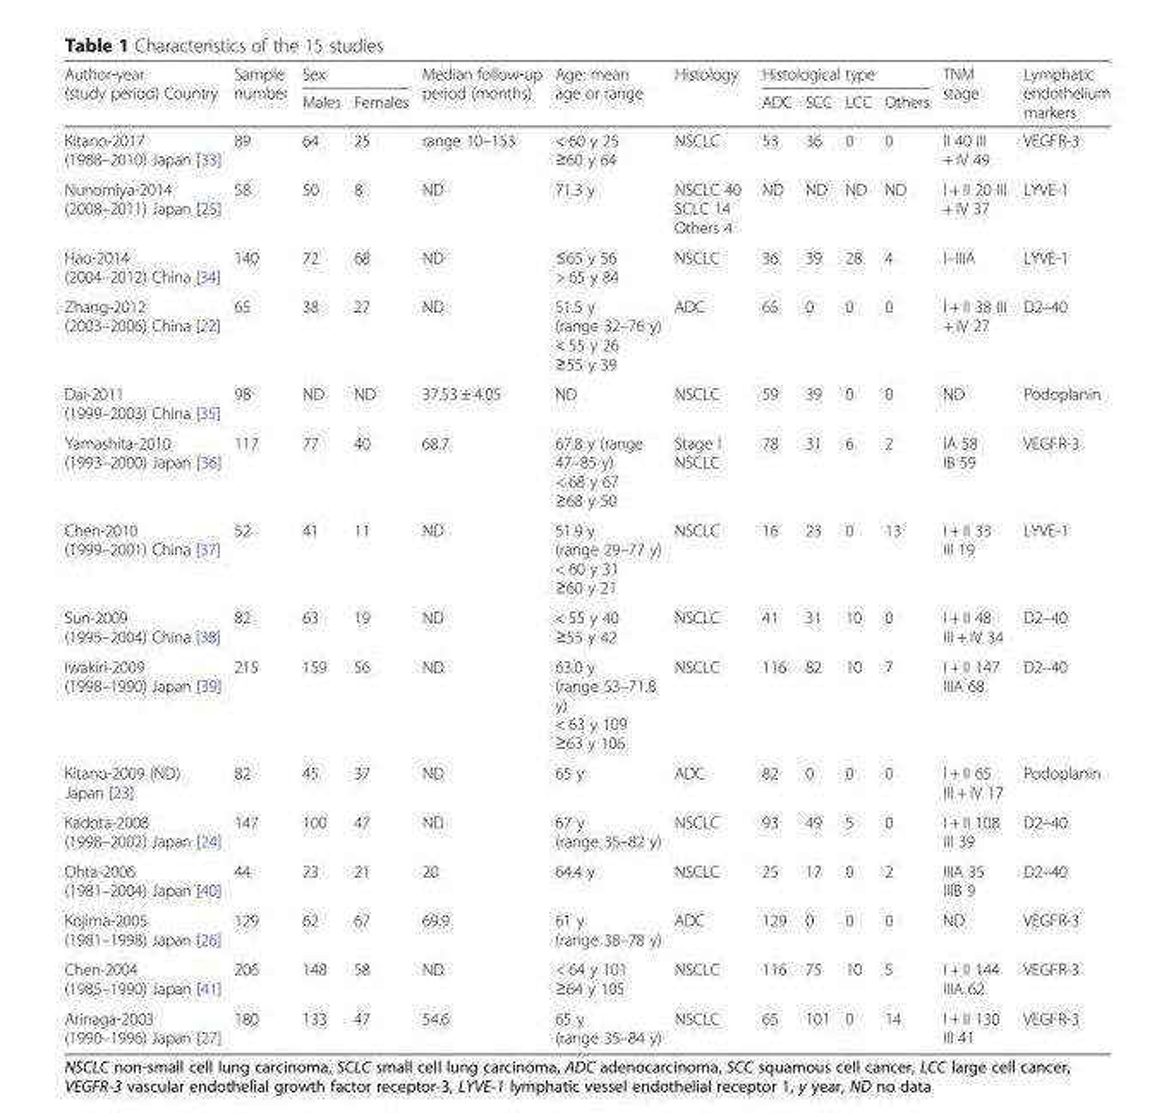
<table><thead><tr><td rowspan="2">Author-year (study period) Country</td><td rowspan="2">Sample number</td><td colspan="2">Sex</td><td rowspan="2">Median follow-up period (months)</td><td rowspan="2">Age: mean age or range</td><td rowspan="2">Histology</td><td colspan="4">Histological type</td><td rowspan="2">TNM stage</td><td rowspan="2">Lymphatic endothelium markers</td></tr><tr><td>Males</td><td>Females</td><td>ADC</td><td>SCC</td><td>LCC</td><td>Others</td></tr></thead><tbody><tr><td>Kitano-2017 (1988–2010) Japan [33]</td><td>89</td><td>64</td><td>25</td><td>range 10–153</td><td>&lt; 60 y 25 ≥60 y 64</td><td>NSCLC</td><td>53</td><td>36</td><td>0</td><td>0</td><td>II 40 III + IV 49</td><td>VEGFR-3</td></tr><tr><td>Nunomiya-2014 (2008–2011) Japan [25]</td><td>58</td><td>50</td><td>8</td><td>ND</td><td>71.3 y</td><td>NSCLC 40 SCLC 14 Others 4</td><td>ND</td><td>ND</td><td>ND</td><td>ND</td><td>I + II 20 III + IV 37</td><td>LYVE-1</td></tr><tr><td>Hao-2014 (2004–2012) China [34]</td><td>140</td><td>72</td><td>68</td><td>ND</td><td>≤65 y 56 &gt; 65 y 84</td><td>NSCLC</td><td>36</td><td>39</td><td>28</td><td>4</td><td>I–IIIA</td><td>LYVE-1</td></tr><tr><td>Zhang-2012 (2003–2006) China [22]</td><td>65</td><td>38</td><td>27</td><td>ND</td><td>51.5 y (range 32–76 y) &lt; 55 y 26 ≥55 y 39</td><td>ADC</td><td>65</td><td>0</td><td>0</td><td>0</td><td>I + II 38 III + IV 27</td><td>D2–40</td></tr><tr><td>Dai-2011 (1999–2003) China [35]</td><td>98</td><td>ND</td><td>ND</td><td>37.53 ± 4.05</td><td>ND</td><td>NSCLC</td><td>59</td><td>39</td><td>0</td><td>0</td><td>ND</td><td>Podoplanin</td></tr><tr><td>Yamashita-2010 (1993–2000) Japan [36]</td><td>117</td><td>77</td><td>40</td><td>68.7</td><td>67.8 y (range 47–85 y) &lt; 68 y 67 ≥68 y 50</td><td>Stage I NSCLC</td><td>78</td><td>31</td><td>6</td><td>2</td><td>IA 58 IB 59</td><td>VEGFR-3</td></tr><tr><td>Chen-2010 (1999–2001) China [37]</td><td>52</td><td>41</td><td>11</td><td>ND</td><td>51.9 y (range 29–77 y) &lt; 60 y 31 ≥60 y 21</td><td>NSCLC</td><td>16</td><td>23</td><td>0</td><td>13</td><td>I + II 33 III 19</td><td>LYVE-1</td></tr><tr><td>Sun-2009 (1995–2004) China [38]</td><td>82</td><td>63</td><td>19</td><td>ND</td><td>&lt; 55 y 40 ≥55 y 42</td><td>NSCLC</td><td>41</td><td>31</td><td>10</td><td>0</td><td>I + II 48 III + IV 34</td><td>D2–40</td></tr><tr><td>Iwakiri-2009 (1998–1990) Japan [39]</td><td>215</td><td>159</td><td>56</td><td>ND</td><td>63.0 y (range 53–71.8 y) &lt; 63 y 109 ≥63 y 106</td><td>NSCLC</td><td>116</td><td>82</td><td>10</td><td>7</td><td>I + II 147 IIIA 68</td><td>D2–40</td></tr><tr><td>Kitano-2009 (ND) Japan [23]</td><td>82</td><td>45</td><td>37</td><td>ND</td><td>65 y</td><td>ADC</td><td>82</td><td>0</td><td>0</td><td>0</td><td>I + II 65 III + IV 17</td><td>Podoplanin</td></tr><tr><td>Kadota-2008 (1998–2002) Japan [24]</td><td>147</td><td>100</td><td>47</td><td>ND</td><td>67 y (range 35–82 y)</td><td>NSCLC</td><td>93</td><td>49</td><td>5</td><td>0</td><td>I + II 108 III 39</td><td>D2–40</td></tr><tr><td>Ohta-2006 (1981–2004) Japan [40]</td><td>44</td><td>23</td><td>21</td><td>20</td><td>64.4 y</td><td>NSCLC</td><td>25</td><td>17</td><td>0</td><td>2</td><td>IIIA 35 IIIB 9</td><td>D2–40</td></tr><tr><td>Kojima-2005 (1981–1998) Japan [26]</td><td>129</td><td>62</td><td>67</td><td>69.9</td><td>61 y (range 38–78 y)</td><td>ADC</td><td>129</td><td>0</td><td>0</td><td>0</td><td>ND</td><td>VEGFR-3</td></tr><tr><td>Chen-2004 (1985–1990) Japan [41]</td><td>206</td><td>148</td><td>58</td><td>ND</td><td>&lt; 64 y 101 ≥64 y 105</td><td>NSCLC</td><td>116</td><td>75</td><td>10</td><td>5</td><td>I + II 144 IIIA 62</td><td>VEGFR-3</td></tr><tr><td>Arinaga-2003 (1990–1996) Japan [27]</td><td>180</td><td>133</td><td>47</td><td>54.6</td><td>65 y (range 35–84 y)</td><td>NSCLC</td><td>65</td><td>101</td><td>0</td><td>14</td><td>I + II 130 III 41</td><td>VEGFR-3</td></tr></tbody></table>